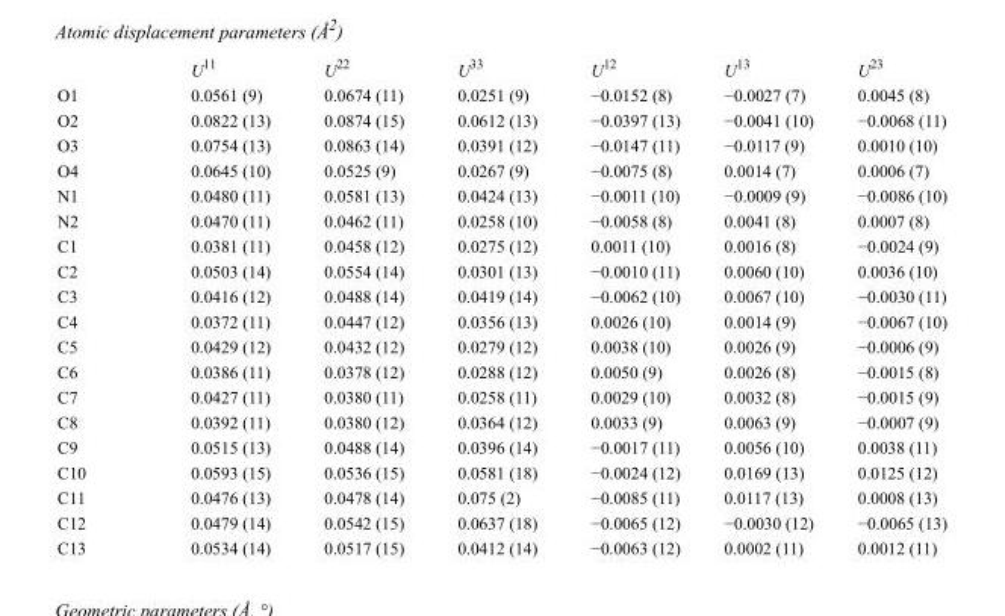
<table><thead><tr><td></td><td>U<sup>11</sup></td><td>U<sup>22</sup></td><td>U<sup>33</sup></td><td>U<sup>12</sup></td><td>U<sup>13</sup></td><td>U<sup>23</sup></td></tr></thead><tbody><tr><td>O1</td><td>0.0561 (9)</td><td>0.0674 (11)</td><td>0.0251 (9)</td><td>−0.0152 (8)</td><td>−0.0027 (7)</td><td>0.0045 (8)</td></tr><tr><td>O2</td><td>0.0822 (13)</td><td>0.0874 (15)</td><td>0.0612 (13)</td><td>−0.0397 (13)</td><td>−0.0041 (10)</td><td>−0.0068 (11)</td></tr><tr><td>O3</td><td>0.0754 (13)</td><td>0.0863 (14)</td><td>0.0391 (12)</td><td>−0.0147 (11)</td><td>−0.0117 (9)</td><td>0.0010 (10)</td></tr><tr><td>O4</td><td>0.0645 (10)</td><td>0.0525 (9)</td><td>0.0267 (9)</td><td>−0.0075 (8)</td><td>0.0014 (7)</td><td>0.0006 (7)</td></tr><tr><td>N1</td><td>0.0480 (11)</td><td>0.0581 (13)</td><td>0.0424 (13)</td><td>−0.0011 (10)</td><td>−0.0009 (9)</td><td>−0.0086 (10)</td></tr><tr><td>N2</td><td>0.0470 (11)</td><td>0.0462 (11)</td><td>0.0258 (10)</td><td>−0.0058 (8)</td><td>0.0041 (8)</td><td>0.0007 (8)</td></tr><tr><td>C1</td><td>0.0381 (11)</td><td>0.0458 (12)</td><td>0.0275 (12)</td><td>0.0011 (10)</td><td>0.0016 (8)</td><td>−0.0024 (9)</td></tr><tr><td>C2</td><td>0.0503 (14)</td><td>0.0554 (14)</td><td>0.0301 (13)</td><td>−0.0010 (11)</td><td>0.0060 (10)</td><td>0.0036 (10)</td></tr><tr><td>C3</td><td>0.0416 (12)</td><td>0.0488 (14)</td><td>0.0419 (14)</td><td>−0.0062 (10)</td><td>0.0067 (10)</td><td>−0.0030 (11)</td></tr><tr><td>C4</td><td>0.0372 (11)</td><td>0.0447 (12)</td><td>0.0356 (13)</td><td>0.0026 (10)</td><td>0.0014 (9)</td><td>−0.0067 (10)</td></tr><tr><td>C5</td><td>0.0429 (12)</td><td>0.0432 (12)</td><td>0.0279 (12)</td><td>0.0038 (10)</td><td>0.0026 (9)</td><td>−0.0006 (9)</td></tr><tr><td>C6</td><td>0.0386 (11)</td><td>0.0378 (12)</td><td>0.0288 (12)</td><td>0.0050 (9)</td><td>0.0026 (8)</td><td>−0.0015 (8)</td></tr><tr><td>C7</td><td>0.0427 (11)</td><td>0.0380 (11)</td><td>0.0258 (11)</td><td>0.0029 (10)</td><td>0.0032 (8)</td><td>−0.0015 (9)</td></tr><tr><td>C8</td><td>0.0392 (11)</td><td>0.0380 (12)</td><td>0.0364 (12)</td><td>0.0033 (9)</td><td>0.0063 (9)</td><td>−0.0007 (9)</td></tr><tr><td>C9</td><td>0.0515 (13)</td><td>0.0488 (14)</td><td>0.0396 (14)</td><td>−0.0017 (11)</td><td>0.0056 (10)</td><td>0.0038 (11)</td></tr><tr><td>C10</td><td>0.0593 (15)</td><td>0.0536 (15)</td><td>0.0581 (18)</td><td>−0.0024 (12)</td><td>0.0169 (13)</td><td>0.0125 (12)</td></tr><tr><td>C11</td><td>0.0476 (13)</td><td>0.0478 (14)</td><td>0.075 (2)</td><td>−0.0085 (11)</td><td>0.0117 (13)</td><td>0.0008 (13)</td></tr><tr><td>C12</td><td>0.0479 (14)</td><td>0.0542 (15)</td><td>0.0637 (18)</td><td>−0.0065 (12)</td><td>−0.0030 (12)</td><td>−0.0065 (13)</td></tr><tr><td>C13</td><td>0.0534 (14)</td><td>0.0517 (15)</td><td>0.0412 (14)</td><td>−0.0063 (12)</td><td>0.0002 (11)</td><td>0.0012 (11)</td></tr></tbody></table>